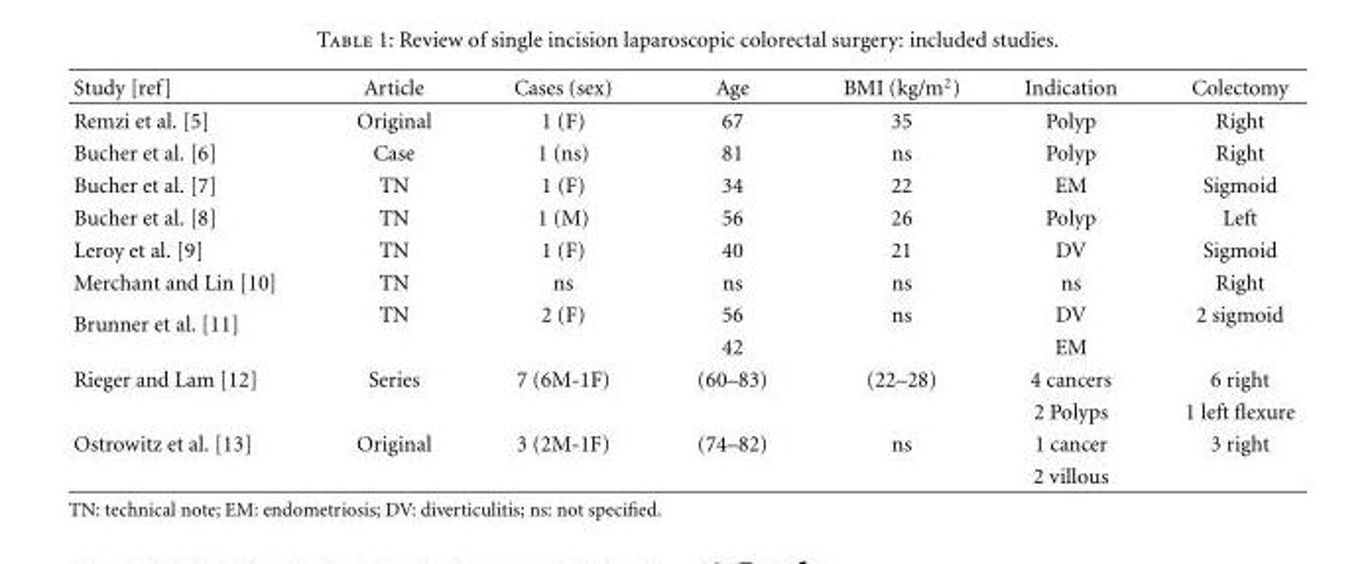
<table><thead><tr><td>Study [ref]</td><td>Article</td><td>Cases (sex)</td><td>Age</td><td>BMI (kg/m<sup>2</sup>)</td><td>Indication</td><td>Colectomy</td></tr></thead><tbody><tr><td>Remzi et al. [5]</td><td>Original</td><td>1 (F)</td><td>67</td><td>35</td><td>Polyp</td><td>Right</td></tr><tr><td>Bucher et al. [6]</td><td>Case</td><td>1 (ns)</td><td>81</td><td>ns</td><td>Polyp</td><td>Right</td></tr><tr><td>Bucher et al. [7]</td><td>TN</td><td>1 (F)</td><td>34</td><td>22</td><td>EM</td><td>Sigmoid</td></tr><tr><td>Bucher et al. [8]</td><td>TN</td><td>1 (M)</td><td>56</td><td>26</td><td>Polyp</td><td>Left</td></tr><tr><td>Leroy et al. [9]</td><td>TN</td><td>1 (F)</td><td>40</td><td>21</td><td>DV</td><td>Sigmoid</td></tr><tr><td>Merchant and Lin [10]</td><td>TN</td><td>ns</td><td>ns</td><td>ns</td><td>ns</td><td>Right</td></tr><tr><td rowspan="2">Brunner et al. [11]</td><td>TN</td><td>2 (F)</td><td>56</td><td>ns</td><td>DV</td><td>2 sigmoid</td></tr><tr><td></td><td></td><td>42</td><td></td><td>EM</td><td></td></tr><tr><td rowspan="2">Rieger and Lam [12]</td><td>Series</td><td>7 (6M-1F)</td><td>(60–83)</td><td>(22–28)</td><td>4 cancers</td><td>6 right</td></tr><tr><td></td><td></td><td></td><td></td><td>2 Polyps</td><td>1 left flexure</td></tr><tr><td rowspan="2">Ostrowitz et al. [13]</td><td>Original</td><td>3 (2M-1F)</td><td>(74–82)</td><td>ns</td><td>1 cancer</td><td>3 right</td></tr><tr><td></td><td></td><td></td><td></td><td>2 villous</td><td></td></tr></tbody></table>